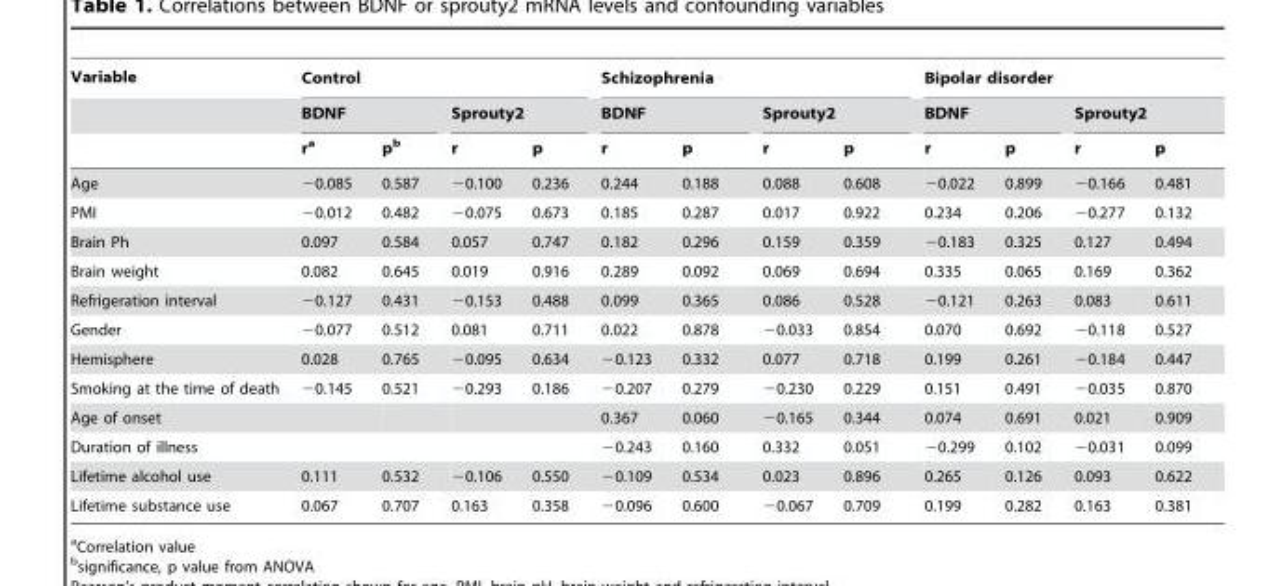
<table><thead><tr><td rowspan="3">Variable</td><td colspan="4">Control</td><td colspan="4">Schizophrenia</td><td colspan="4">Bipolar disorder</td></tr><tr><td colspan="2">BDNF</td><td colspan="2">Sprouty2</td><td colspan="2">BDNF</td><td colspan="2">Sprouty2</td><td colspan="2">BDNF</td><td colspan="2">Sprouty2</td></tr><tr><td>r<sup>a</sup></td><td>p<sup>b</sup></td><td>r</td><td>p</td><td>r</td><td>p</td><td>r</td><td>p</td><td>r</td><td>p</td><td>r</td><td>p</td></tr></thead><tbody><tr><td>Age</td><td>−0.085</td><td>0.587</td><td>−0.100</td><td>0.236</td><td>0.244</td><td>0.188</td><td>0.088</td><td>0.608</td><td>−0.022</td><td>0.899</td><td>−0.166</td><td>0.481</td></tr><tr><td>PMI</td><td>−0.012</td><td>0.482</td><td>−0.075</td><td>0.673</td><td>0.185</td><td>0.287</td><td>0.017</td><td>0.922</td><td>0.234</td><td>0.206</td><td>−0.277</td><td>0.132</td></tr><tr><td>Brain Ph</td><td>0.097</td><td>0.584</td><td>0.057</td><td>0.747</td><td>0.182</td><td>0.296</td><td>0.159</td><td>0.359</td><td>−0.183</td><td>0.325</td><td>0.127</td><td>0.494</td></tr><tr><td>Brain weight</td><td>0.082</td><td>0.645</td><td>0.019</td><td>0.916</td><td>0.289</td><td>0.092</td><td>0.069</td><td>0.694</td><td>0.335</td><td>0.065</td><td>0.169</td><td>0.362</td></tr><tr><td>Refrigeration interval</td><td>−0.127</td><td>0.431</td><td>−0.153</td><td>0.488</td><td>0.099</td><td>0.365</td><td>0.086</td><td>0.528</td><td>−0.121</td><td>0.263</td><td>0.083</td><td>0.611</td></tr><tr><td>Gender</td><td>−0.077</td><td>0.512</td><td>0.081</td><td>0.711</td><td>0.022</td><td>0.878</td><td>−0.033</td><td>0.854</td><td>0.070</td><td>0.692</td><td>−0.118</td><td>0.527</td></tr><tr><td>Hemisphere</td><td>0.028</td><td>0.765</td><td>−0.095</td><td>0.634</td><td>−0.123</td><td>0.332</td><td>0.077</td><td>0.718</td><td>0.199</td><td>0.261</td><td>−0.184</td><td>0.447</td></tr><tr><td>Smoking at the time of death</td><td>−0.145</td><td>0.521</td><td>−0.293</td><td>0.186</td><td>−0.207</td><td>0.279</td><td>−0.230</td><td>0.229</td><td>0.151</td><td>0.491</td><td>−0.035</td><td>0.870</td></tr><tr><td>Age of onset</td><td></td><td></td><td></td><td></td><td>0.367</td><td>0.060</td><td>−0.165</td><td>0.344</td><td>0.074</td><td>0.691</td><td>0.021</td><td>0.909</td></tr><tr><td>Duration of illness</td><td></td><td></td><td></td><td></td><td>−0.243</td><td>0.160</td><td>0.332</td><td>0.051</td><td>−0.299</td><td>0.102</td><td>−0.031</td><td>0.099</td></tr><tr><td>Lifetime alcohol use</td><td>0.111</td><td>0.532</td><td>−0.106</td><td>0.550</td><td>−0.109</td><td>0.534</td><td>0.023</td><td>0.896</td><td>0.265</td><td>0.126</td><td>0.093</td><td>0.622</td></tr><tr><td>Lifetime substance use</td><td>0.067</td><td>0.707</td><td>0.163</td><td>0.358</td><td>−0.096</td><td>0.600</td><td>−0.067</td><td>0.709</td><td>0.199</td><td>0.282</td><td>0.163</td><td>0.381</td></tr></tbody></table>